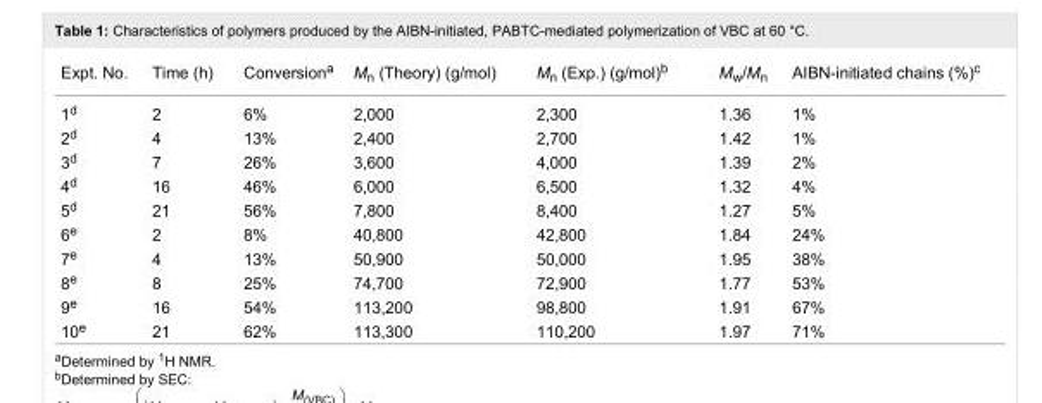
<table><tbody><tr><td>Expt. No.</td><td>Time (h)</td><td>Conversion<sup>a</sup></td><td>M<sub>n</sub> (Theory) (g/mol)</td><td>M<sub>n</sub> (Exp.) (g/mol)<sup>b</sup></td><td>M<sub>w</sub>/M<sub>n</sub></td><td>AIBN-initiated chains (%)<sup>c</sup></td></tr><tr><td>1<sup>d</sup></td><td>2</td><td>6%</td><td>2,000</td><td>2,300</td><td>1.36</td><td>1%</td></tr><tr><td>2<sup>d</sup></td><td>4</td><td>13%</td><td>2,400</td><td>2,700</td><td>1.42</td><td>1%</td></tr><tr><td>3<sup>d</sup></td><td>7</td><td>26%</td><td>3,600</td><td>4,000</td><td>1.39</td><td>2%</td></tr><tr><td>4<sup>d</sup></td><td>16</td><td>46%</td><td>6,000</td><td>6,500</td><td>1.32</td><td>4%</td></tr><tr><td>5<sup>d</sup></td><td>21</td><td>56%</td><td>7,800</td><td>8,400</td><td>1.27</td><td>5%</td></tr><tr><td>6<sup>e</sup></td><td>2</td><td>8%</td><td>40,800</td><td>42,800</td><td>1.84</td><td>24%</td></tr><tr><td>7<sup>e</sup></td><td>4</td><td>13%</td><td>50,900</td><td>50,000</td><td>1.95</td><td>38%</td></tr><tr><td>8<sup>e</sup></td><td>8</td><td>25%</td><td>74,700</td><td>72,900</td><td>1.77</td><td>53%</td></tr><tr><td>9<sup>e</sup></td><td>16</td><td>54%</td><td>113,200</td><td>98,800</td><td>1.91</td><td>67%</td></tr><tr><td>10<sup>e</sup></td><td>21</td><td>62%</td><td>113,300</td><td>110,200</td><td>1.97</td><td>71%</td></tr></tbody></table>